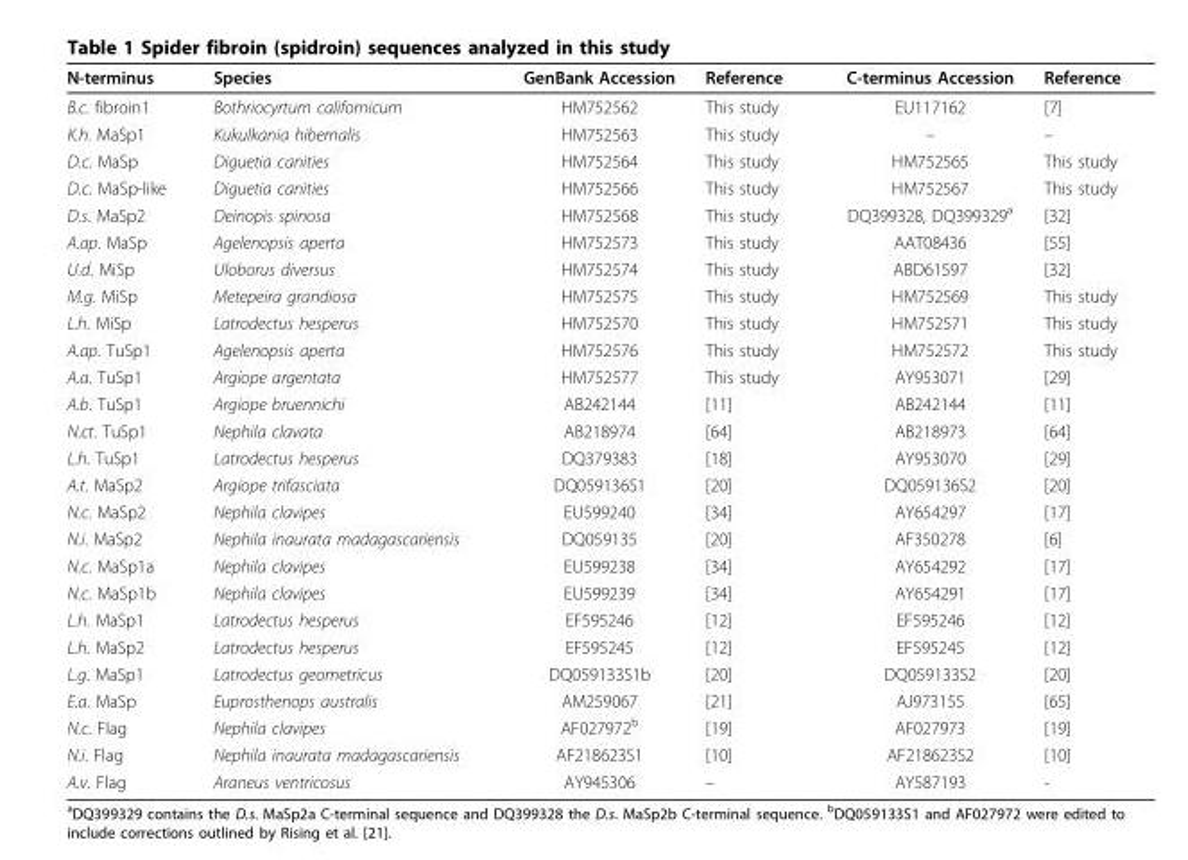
<table><thead><tr><td>N-terminus</td><td>Species</td><td>GenBank Accession</td><td>Reference</td><td>C-terminus Accession</td><td>Reference</td></tr></thead><tbody><tr><td>B.c. fibroin1</td><td>Bothriocyrtum californicum</td><td>HM752562</td><td>This study</td><td>EU117162</td><td>[7]</td></tr><tr><td>K.h. MaSp1</td><td>Kukulkania hibernalis</td><td>HM752563</td><td>This study</td><td>–</td><td>–</td></tr><tr><td>D.c. MaSp</td><td>Diguetia canities</td><td>HM752564</td><td>This study</td><td>HM752565</td><td>This study</td></tr><tr><td>D.c. MaSp-like</td><td>Diguetia canities</td><td>HM752566</td><td>This study</td><td>HM752567</td><td>This study</td></tr><tr><td>D.s. MaSp2</td><td>Deinopis spinosa</td><td>HM752568</td><td>This study</td><td>DQ399328, DQ399329<sup>a</sup></td><td>[32]</td></tr><tr><td>A.ap. MaSp</td><td>Agelenopsis aperta</td><td>HM752573</td><td>This study</td><td>AAT08436</td><td>[55]</td></tr><tr><td>U.d. MiSp</td><td>Uloborus diversus</td><td>HM752574</td><td>This study</td><td>ABD61597</td><td>[32]</td></tr><tr><td>M.g. MiSp</td><td>Metepeira grandiosa</td><td>HM752575</td><td>This study</td><td>HM752569</td><td>This study</td></tr><tr><td>L.h. MiSp</td><td>Latrodectus hesperus</td><td>HM752570</td><td>This study</td><td>HM752571</td><td>This study</td></tr><tr><td>A.ap. TuSp1</td><td>Agelenopsis aperta</td><td>HM752576</td><td>This study</td><td>HM752572</td><td>This study</td></tr><tr><td>A.a. TuSp1</td><td>Argiope argentata</td><td>HM752577</td><td>This study</td><td>AY953071</td><td>[29]</td></tr><tr><td>A.b. TuSp1</td><td>Argiope bruennichi</td><td>AB242144</td><td>[11]</td><td>AB242144</td><td>[11]</td></tr><tr><td>N.ct. TuSp1</td><td>Nephila clavata</td><td>AB218974</td><td>[64]</td><td>AB218973</td><td>[64]</td></tr><tr><td>L.h. TuSp1</td><td>Latrodectus hesperus</td><td>DQ379383</td><td>[18]</td><td>AY953070</td><td>[29]</td></tr><tr><td>A.t. MaSp2</td><td>Argiope trifasciata</td><td>DQ059136S1</td><td>[20]</td><td>DQ059136S2</td><td>[20]</td></tr><tr><td>N.c. MaSp2</td><td>Nephila clavipes</td><td>EU599240</td><td>[34]</td><td>AY654297</td><td>[17]</td></tr><tr><td>N.i. MaSp2</td><td>Nephila inaurata madagascariensis</td><td>DQ059135</td><td>[20]</td><td>AF350278</td><td>[6]</td></tr><tr><td>N.c. MaSp1a</td><td>Nephila clavipes</td><td>EU599238</td><td>[34]</td><td>AY654292</td><td>[17]</td></tr><tr><td>N.c. MaSp1b</td><td>Nephila clavipes</td><td>EU599239</td><td>[34]</td><td>AY654291</td><td>[17]</td></tr><tr><td>L.h. MaSp1</td><td>Latrodectus hesperus</td><td>EF595246</td><td>[12]</td><td>EF595246</td><td>[12]</td></tr><tr><td>L.h. MaSp2</td><td>Latrodectus hesperus</td><td>EF595245</td><td>[12]</td><td>EF595245</td><td>[12]</td></tr><tr><td>L.g. MaSp1</td><td>Latrodectus geometricus</td><td>DQ059133S1b</td><td>[20]</td><td>DQ059133S2</td><td>[20]</td></tr><tr><td>E.a. MaSp</td><td>Euprosthenops australis</td><td>AM259067</td><td>[21]</td><td>AJ973155</td><td>[65]</td></tr><tr><td>N.c. Flag</td><td>Nephila clavipes</td><td>AF027972<sup>b</sup></td><td>[19]</td><td>AF027973</td><td>[19]</td></tr><tr><td>N.i. Flag</td><td>Nephila inaurata madagascariensis</td><td>AF218623S1</td><td>[10]</td><td>AF218623S2</td><td>[10]</td></tr><tr><td>A.v. Flag</td><td>Araneus ventricosus</td><td>AY945306</td><td>–</td><td>AY587193</td><td>-</td></tr></tbody></table>